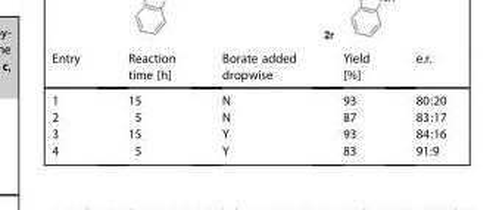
<table><thead><tr><td>Entry</td><td>Reaction time [h]</td><td>Borate added dropwise</td><td>Yield [%]</td><td>e.r.</td></tr></thead><tbody><tr><td>1</td><td>15</td><td>N</td><td>93</td><td>80:20</td></tr><tr><td>2</td><td>5</td><td>N</td><td>87</td><td>83:17</td></tr><tr><td>3</td><td>15</td><td>Y</td><td>93</td><td>84:16</td></tr><tr><td>4</td><td>5</td><td>Y</td><td>83</td><td>91:9</td></tr></tbody></table>